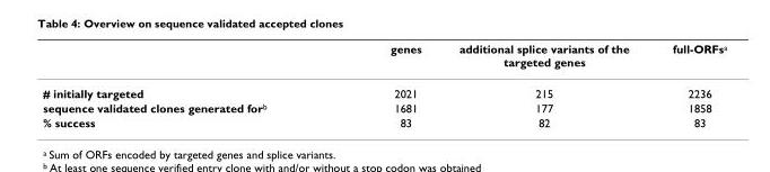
<table><thead><tr><td></td><td>genes</td><td>additional splice variants of the targeted genes</td><td>full-ORFs<sup>a</sup></td></tr></thead><tbody><tr><td># initially targeted</td><td>2021</td><td>215</td><td>2236</td></tr><tr><td>sequence validated clones generated for<sup>b</sup></td><td>1681</td><td>177</td><td>1858</td></tr><tr><td>% success</td><td>83</td><td>82</td><td>83</td></tr></tbody></table>